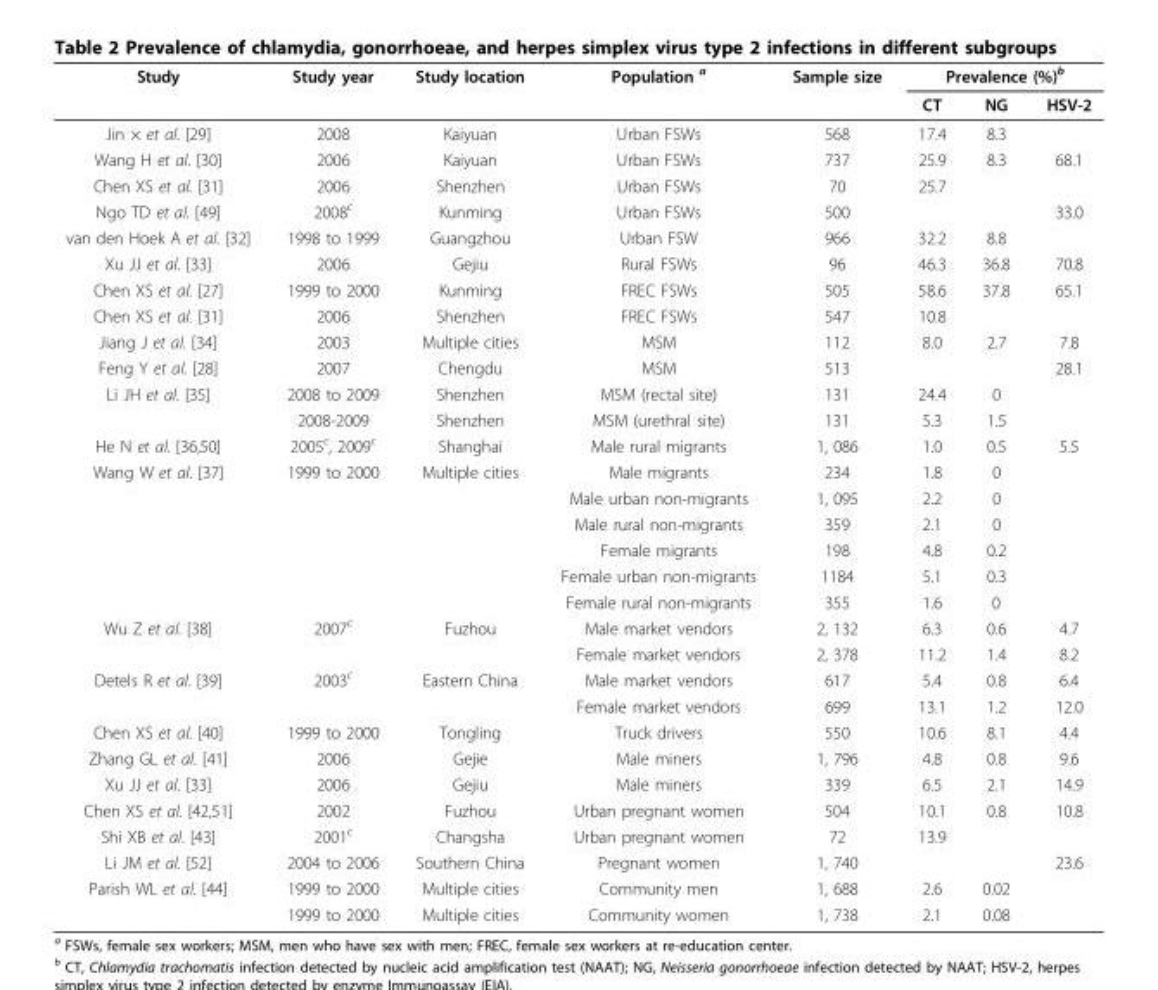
<table><thead><tr><td rowspan="2">Study</td><td rowspan="2">Study year</td><td rowspan="2">Study location</td><td rowspan="2">Population <sup>a</sup></td><td rowspan="2">Sample size</td><td colspan="3">Prevalence (%)<sup>b</sup></td></tr><tr><td>CT</td><td>NG</td><td>HSV-2</td></tr></thead><tbody><tr><td>Jin × et al. [29]</td><td>2008</td><td>Kaiyuan</td><td>Urban FSWs</td><td>568</td><td>17.4</td><td>8.3</td><td></td></tr><tr><td>Wang H et al. [30]</td><td>2006</td><td>Kaiyuan</td><td>Urban FSWs</td><td>737</td><td>25.9</td><td>8.3</td><td>68.1</td></tr><tr><td>Chen XS et al. [31]</td><td>2006</td><td>Shenzhen</td><td>Urban FSWs</td><td>70</td><td>25.7</td><td></td><td></td></tr><tr><td>Ngo TD et al. [49]</td><td>2008<sup>c</sup></td><td>Kunming</td><td>Urban FSWs</td><td>500</td><td></td><td></td><td>33.0</td></tr><tr><td>van den Hoek A et al. [32]</td><td>1998 to 1999</td><td>Guangzhou</td><td>Urban FSW</td><td>966</td><td>32.2</td><td>8.8</td><td></td></tr><tr><td>Xu JJ et al. [33]</td><td>2006</td><td>Gejiu</td><td>Rural FSWs</td><td>96</td><td>46.3</td><td>36.8</td><td>70.8</td></tr><tr><td>Chen XS et al. [27]</td><td>1999 to 2000</td><td>Kunming</td><td>FREC FSWs</td><td>505</td><td>58.6</td><td>37.8</td><td>65.1</td></tr><tr><td>Chen XS et al. [31]</td><td>2006</td><td>Shenzhen</td><td>FREC FSWs</td><td>547</td><td>10.8</td><td></td><td></td></tr><tr><td>Jiang J et al. [34]</td><td>2003</td><td>Multiple cities</td><td>MSM</td><td>112</td><td>8.0</td><td>2.7</td><td>7.8</td></tr><tr><td>Feng Y et al. [28]</td><td>2007</td><td>Chengdu</td><td>MSM</td><td>513</td><td></td><td></td><td>28.1</td></tr><tr><td rowspan="2">Li JH et al. [35]</td><td>2008 to 2009</td><td>Shenzhen</td><td>MSM (rectal site)</td><td>131</td><td>24.4</td><td>0</td><td></td></tr><tr><td>2008-2009</td><td>Shenzhen</td><td>MSM (urethral site)</td><td>131</td><td>5.3</td><td>1.5</td><td></td></tr><tr><td>He N et al. [36,50]</td><td>2005<sup>c</sup>, 2009<sup>c</sup></td><td>Shanghai</td><td>Male rural migrants</td><td>1, 086</td><td>1.0</td><td>0.5</td><td>5.5</td></tr><tr><td rowspan="6">Wang W et al. [37]</td><td>1999 to 2000</td><td>Multiple cities</td><td>Male migrants</td><td>234</td><td>1.8</td><td>0</td><td></td></tr><tr><td></td><td></td><td>Male urban non-migrants</td><td>1, 095</td><td>2.2</td><td>0</td><td></td></tr><tr><td></td><td></td><td>Male rural non-migrants</td><td>359</td><td>2.1</td><td>0</td><td></td></tr><tr><td></td><td></td><td>Female migrants</td><td>198</td><td>4.8</td><td>0.2</td><td></td></tr><tr><td></td><td></td><td>Female urban non-migrants</td><td>1184</td><td>5.1</td><td>0.3</td><td></td></tr><tr><td></td><td></td><td>Female rural non-migrants</td><td>355</td><td>1.6</td><td>0</td><td></td></tr><tr><td rowspan="2">Wu Z et al. [38]</td><td>2007<sup>c</sup></td><td>Fuzhou</td><td>Male market vendors</td><td>2, 132</td><td>6.3</td><td>0.6</td><td>4.7</td></tr><tr><td></td><td></td><td>Female market vendors</td><td>2, 378</td><td>11.2</td><td>1.4</td><td>8.2</td></tr><tr><td rowspan="2">Detels R et al. [39]</td><td>2003<sup>c</sup></td><td>Eastern China</td><td>Male market vendors</td><td>617</td><td>5.4</td><td>0.8</td><td>6.4</td></tr><tr><td></td><td></td><td>Female market vendors</td><td>699</td><td>13.1</td><td>1.2</td><td>12.0</td></tr><tr><td>Chen XS et al. [40]</td><td>1999 to 2000</td><td>Tongling</td><td>Truck drivers</td><td>550</td><td>10.6</td><td>8.1</td><td>4.4</td></tr><tr><td>Zhang GL et al. [41]</td><td>2006</td><td>Gejie</td><td>Male miners</td><td>1, 796</td><td>4.8</td><td>0.8</td><td>9.6</td></tr><tr><td>Xu JJ et al. [33]</td><td>2006</td><td>Gejiu</td><td>Male miners</td><td>339</td><td>6.5</td><td>2.1</td><td>14.9</td></tr><tr><td>Chen XS et al. [42,51]</td><td>2002</td><td>Fuzhou</td><td>Urban pregnant women</td><td>504</td><td>10.1</td><td>0.8</td><td>10.8</td></tr><tr><td>Shi XB et al. [43]</td><td>2001<sup>c</sup></td><td>Changsha</td><td>Urban pregnant women</td><td>72</td><td>13.9</td><td></td><td></td></tr><tr><td>Li JM et al. [52]</td><td>2004 to 2006</td><td>Southern China</td><td>Pregnant women</td><td>1, 740</td><td></td><td></td><td>23.6</td></tr><tr><td rowspan="2">Parish WL et al. [44]</td><td>1999 to 2000</td><td>Multiple cities</td><td>Community men</td><td>1, 688</td><td>2.6</td><td>0.02</td><td></td></tr><tr><td>1999 to 2000</td><td>Multiple cities</td><td>Community women</td><td>1, 738</td><td>2.1</td><td>0.08</td><td></td></tr></tbody></table>